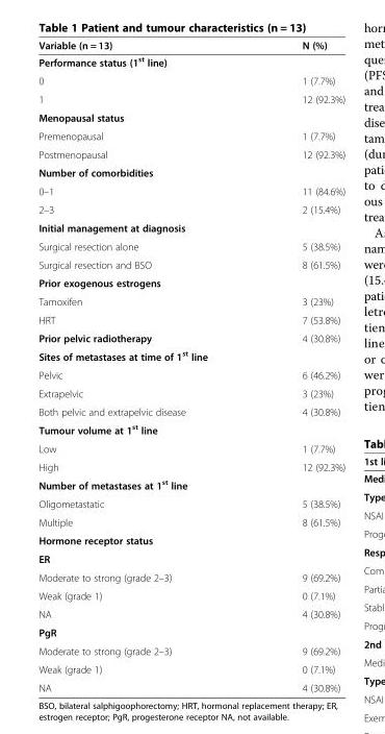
<table><thead><tr><td>Variable (n = 13)</td><td>N (%)</td></tr></thead><tbody><tr><td colspan="2">Performance status (1<sup>st</sup> line)</td></tr><tr><td>0</td><td>1 (7.7%)</td></tr><tr><td>1</td><td>12 (92.3%)</td></tr><tr><td colspan="2">Menopausal status</td></tr><tr><td>Premenopausal</td><td>1 (7.7%)</td></tr><tr><td>Postmenopausal</td><td>12 (92.3%)</td></tr><tr><td colspan="2">Number of comorbidities</td></tr><tr><td>0–1</td><td>11 (84.6%)</td></tr><tr><td>2–3</td><td>2 (15.4%)</td></tr><tr><td colspan="2">Initial management at diagnosis</td></tr><tr><td>Surgical resection alone</td><td>5 (38.5%)</td></tr><tr><td>Surgical resection and BSO</td><td>8 (61.5%)</td></tr><tr><td colspan="2">Prior exogenous estrogens</td></tr><tr><td>Tamoxifen</td><td>3 (23%)</td></tr><tr><td>HRT</td><td>7 (53.8%)</td></tr><tr><td>Prior pelvic radiotherapy</td><td>4 (30.8%)</td></tr><tr><td colspan="2">Sites of metastases at time of 1<sup>st</sup> line</td></tr><tr><td>Pelvic</td><td>6 (46.2%)</td></tr><tr><td>Extrapelvic</td><td>3 (23%)</td></tr><tr><td>Both pelvic and extrapelvic disease</td><td>4 (30.8%)</td></tr><tr><td colspan="2">Tumour volume at 1<sup>st</sup> line</td></tr><tr><td>Low</td><td>1 (7.7%)</td></tr><tr><td>High</td><td>12 (92.3%)</td></tr><tr><td colspan="2">Number of metastases at 1<sup>st</sup> line</td></tr><tr><td>Oligometastatic</td><td>5 (38.5%)</td></tr><tr><td>Multiple</td><td>8 (61.5%)</td></tr><tr><td colspan="2">Hormone receptor status</td></tr><tr><td colspan="2">ER</td></tr><tr><td>Moderate to strong (grade 2–3)</td><td>9 (69.2%)</td></tr><tr><td>Weak (grade 1)</td><td>0 (7.1%)</td></tr><tr><td>NA</td><td>4 (30.8%)</td></tr><tr><td colspan="2">PgR</td></tr><tr><td>Moderate to strong (grade 2–3)</td><td>9 (69.2%)</td></tr><tr><td>Weak (grade 1)</td><td>0 (7.1%)</td></tr><tr><td>NA</td><td>4 (30.8%)</td></tr></tbody></table>